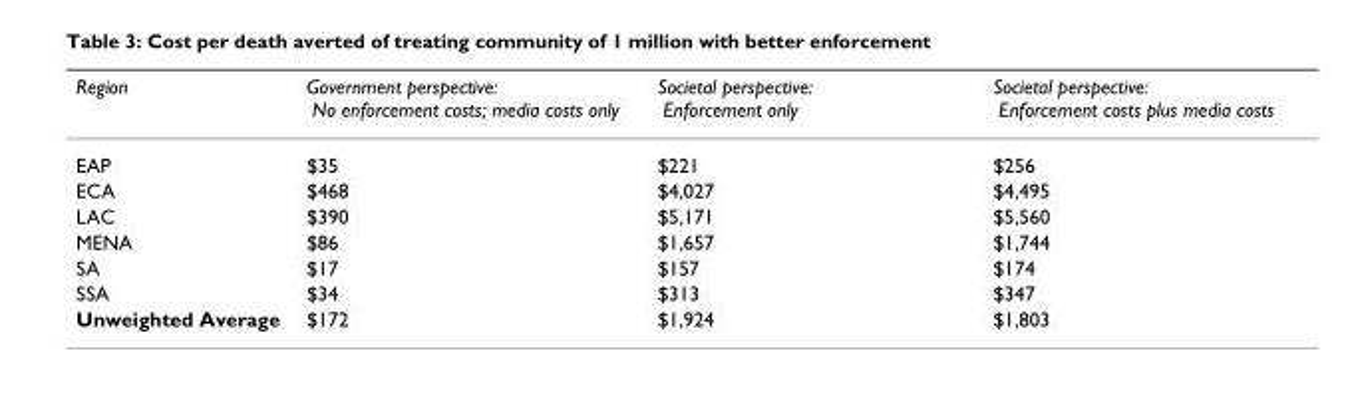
<table><thead><tr><td>Region</td><td>Government perspective: No enforcement costs; media costs only</td><td>Societal perspective: Enforcement only</td><td>Societal perspective: Enforcement costs plus media costs</td></tr></thead><tbody><tr><td>EAP</td><td>$35</td><td>$221</td><td>$256</td></tr><tr><td>ECA</td><td>$468</td><td>$4,027</td><td>$4,495</td></tr><tr><td>LAC</td><td>$390</td><td>$5,171</td><td>$5,560</td></tr><tr><td>MENA</td><td>$86</td><td>$1,657</td><td>$1,744</td></tr><tr><td>SA</td><td>$17</td><td>$157</td><td>$174</td></tr><tr><td>SSA</td><td>$34</td><td>$313</td><td>$347</td></tr><tr><td>Unweighted Average</td><td>$172</td><td>$1,924</td><td>$1,803</td></tr></tbody></table>